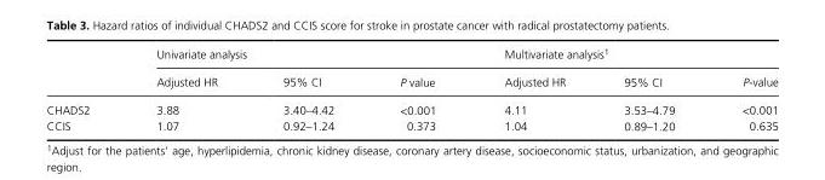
<table><thead><tr><td rowspan="2"></td><td colspan="3">Univariate analysis</td><td colspan="3">Multivariate analysis1</td></tr><tr><td>Adjusted HR</td><td>95% CI</td><td>P value</td><td>Adjusted HR</td><td>95% CI</td><td>P- value</td></tr></thead><tbody><tr><td>CHADS2</td><td>3.88</td><td>3.40–4.42</td><td>&lt;0.001</td><td>4.11</td><td>3.53–4.79</td><td>&lt;0.001</td></tr><tr><td>CCIS</td><td>1.07</td><td>0.92–1.24</td><td>0.373</td><td>1.04</td><td>0.89–1.20</td><td>0.635</td></tr></tbody></table>